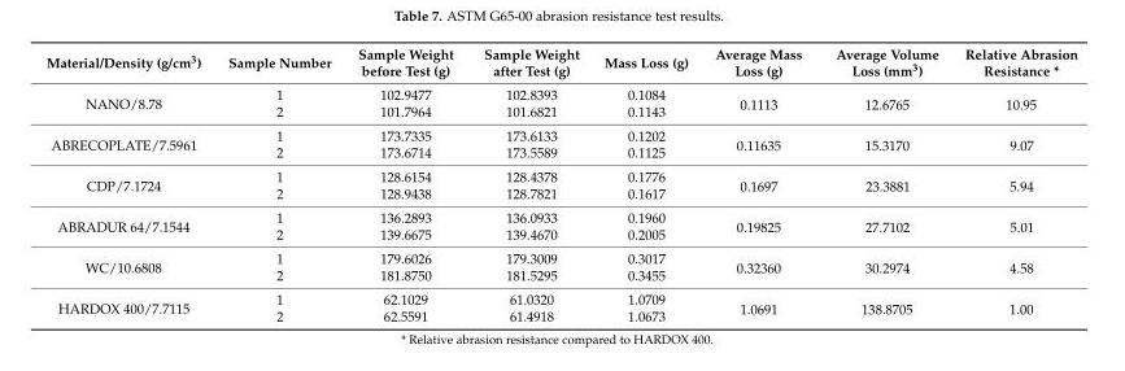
<table><thead><tr><td>Material/Density (g/cm<sup>3</sup>)</td><td>Sample Number</td><td>Sample Weight before Test (g)</td><td>Sample Weight after Test (g)</td><td>Mass Loss (g)</td><td>Average Mass Loss (g)</td><td>Average Volume Loss (mm<sup>3</sup>)</td><td>Relative Abrasion Resistance *</td></tr></thead><tbody><tr><td rowspan="2">NANO/8.78</td><td>1</td><td>102.9477</td><td>102.8393</td><td>0.1084</td><td rowspan="2">0.1113</td><td rowspan="2">12.6765</td><td rowspan="2">10.95</td></tr><tr><td>2</td><td>101.7964</td><td>101.6821</td><td>0.1143</td></tr><tr><td rowspan="2">ABRECOPLATE/7.5961</td><td>1</td><td>173.7335</td><td>173.6133</td><td>0.1202</td><td rowspan="2">0.11635</td><td rowspan="2">15.3170</td><td rowspan="2">9.07</td></tr><tr><td>2</td><td>173.6714</td><td>173.5589</td><td>0.1125</td></tr><tr><td rowspan="2">CDP/7.1724</td><td>1</td><td>128.6154</td><td>128.4378</td><td>0.1776</td><td rowspan="2">0.1697</td><td rowspan="2">23.3881</td><td rowspan="2">5.94</td></tr><tr><td>2</td><td>128.9438</td><td>128.7821</td><td>0.1617</td></tr><tr><td rowspan="2">ABRADUR 64/7.1544</td><td>1</td><td>136.2893</td><td>136.0933</td><td>0.1960</td><td rowspan="2">0.19825</td><td rowspan="2">27.7102</td><td rowspan="2">5.01</td></tr><tr><td>2</td><td>139.6675</td><td>139.4670</td><td>0.2005</td></tr><tr><td rowspan="2">WC/10.6808</td><td>1</td><td>179.6026</td><td>179.3009</td><td>0.3017</td><td rowspan="2">0.32360</td><td rowspan="2">30.2974</td><td rowspan="2">4.58</td></tr><tr><td>2</td><td>181.8750</td><td>181.5295</td><td>0.3455</td></tr><tr><td rowspan="2">HARDOX 400/7.7115</td><td>1</td><td>62.1029</td><td>61.0320</td><td>1.0709</td><td rowspan="2">1.0691</td><td rowspan="2">138.8705</td><td rowspan="2">1.00</td></tr><tr><td>2</td><td>62.5591</td><td>61.4918</td><td>1.0673</td></tr></tbody></table>